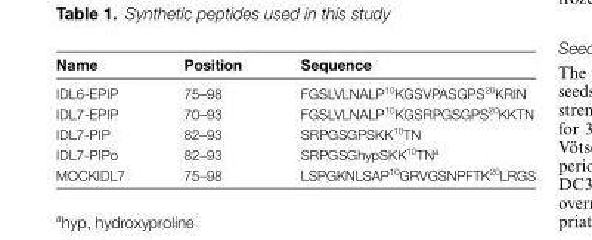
<table><thead><tr><td>Name</td><td>Position</td><td>Sequence</td></tr></thead><tbody><tr><td>IDL6-EPIP</td><td>75–98</td><td>FGSLVLNALP<sup>10</sup>KGSVPASGPS<sup>20</sup>KRIN</td></tr><tr><td>IDL7-EPIP</td><td>70–93</td><td>FGSLVLNALP<sup>10</sup>KGSRPGSGPS<sup>20</sup>KKTN</td></tr><tr><td>IDL7-PIP</td><td>82–93</td><td>SRPGSGPSKK<sup>10</sup>TN</td></tr><tr><td>IDL7-PIPo</td><td>82–93</td><td>SRPGSGhypSKK<sup>10</sup>TN<sup>a</sup></td></tr><tr><td>MOCKIDL7</td><td>75–98</td><td>LSPGKNLSAP<sup>10</sup>GRVGSNPFTK<sup>20</sup>LRGS</td></tr></tbody></table>